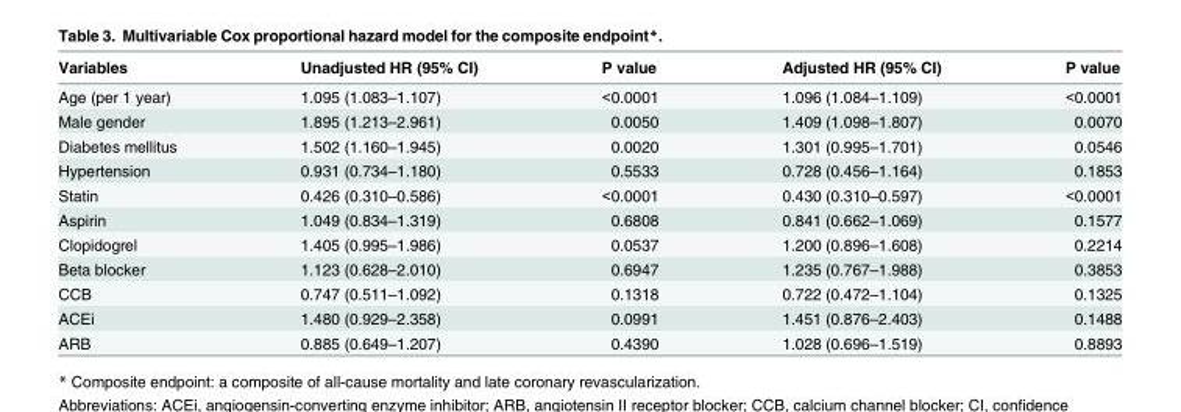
<table><thead><tr><td>Variables</td><td>Unadjusted HR (95% CI)</td><td>P value</td><td>Adjusted HR (95% CI)</td><td>P value</td></tr></thead><tbody><tr><td>Age (per 1 year)</td><td>1.095 (1.083–1.107)</td><td>&lt;0.0001</td><td>1.096 (1.084–1.109)</td><td>&lt;0.0001</td></tr><tr><td>Male gender</td><td>1.895 (1.213–2.961)</td><td>0.0050</td><td>1.409 (1.098–1.807)</td><td>0.0070</td></tr><tr><td>Diabetes mellitus</td><td>1.502 (1.160–1.945)</td><td>0.0020</td><td>1.301 (0.995–1.701)</td><td>0.0546</td></tr><tr><td>Hypertension</td><td>0.931 (0.734–1.180)</td><td>0.5533</td><td>0.728 (0.456–1.164)</td><td>0.1853</td></tr><tr><td>Statin</td><td>0.426 (0.310–0.586)</td><td>&lt;0.0001</td><td>0.430 (0.310–0.597)</td><td>&lt;0.0001</td></tr><tr><td>Aspirin</td><td>1.049 (0.834–1.319)</td><td>0.6808</td><td>0.841 (0.662–1.069)</td><td>0.1577</td></tr><tr><td>Clopidogrel</td><td>1.405 (0.995–1.986)</td><td>0.0537</td><td>1.200 (0.896–1.608)</td><td>0.2214</td></tr><tr><td>Beta blocker</td><td>1.123 (0.628–2.010)</td><td>0.6947</td><td>1.235 (0.767–1.988)</td><td>0.3853</td></tr><tr><td>CCB</td><td>0.747 (0.511–1.092)</td><td>0.1318</td><td>0.722 (0.472–1.104)</td><td>0.1325</td></tr><tr><td>ACEi</td><td>1.480 (0.929–2.358)</td><td>0.0991</td><td>1.451 (0.876–2.403)</td><td>0.1488</td></tr><tr><td>ARB</td><td>0.885 (0.649–1.207)</td><td>0.4390</td><td>1.028 (0.696–1.519)</td><td>0.8893</td></tr></tbody></table>